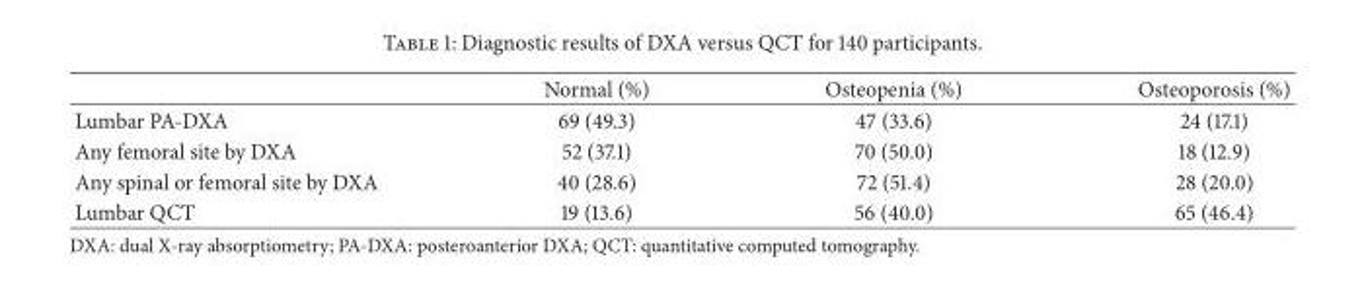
<table><thead><tr><td></td><td>Normal (%)</td><td>Osteopenia (%)</td><td>Osteoporosis (%)</td></tr></thead><tbody><tr><td>Lumbar PA-DXA</td><td>69 (49.3)</td><td>47 (33.6)</td><td>24 (17.1)</td></tr><tr><td>Any femoral site by DXA</td><td>52 (37.1)</td><td>70 (50.0)</td><td>18 (12.9)</td></tr><tr><td>Any spinal or femoral site by DXA</td><td>40 (28.6)</td><td>72 (51.4)</td><td>28 (20.0)</td></tr><tr><td>Lumbar QCT</td><td>19 (13.6)</td><td>56 (40.0)</td><td>65 (46.4)</td></tr></tbody></table>